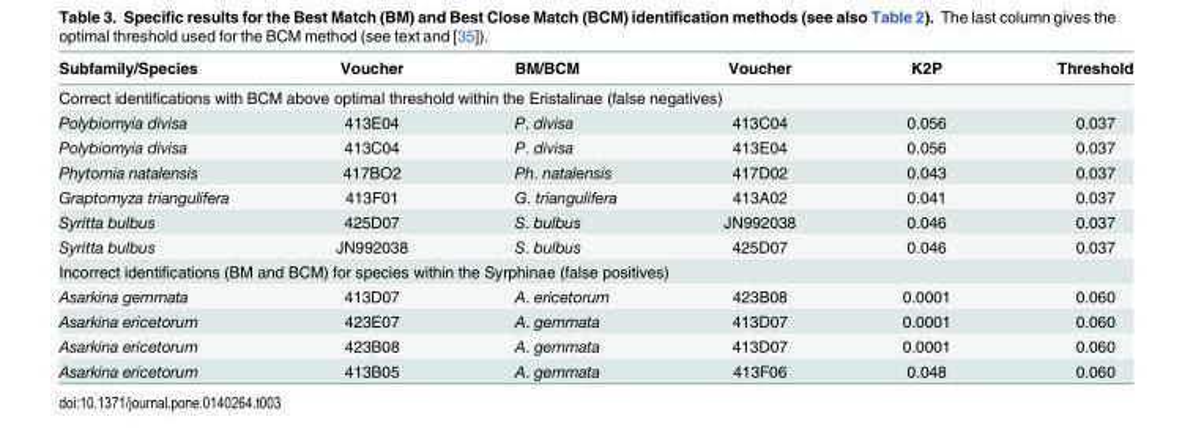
<table><thead><tr><td>Subfamily/Species</td><td>Voucher</td><td>BM/BCM</td><td>Voucher</td><td>K2P</td><td>Threshold</td></tr></thead><tbody><tr><td colspan="6">Correct identifications with BCM above optimal threshold within the Eristalinae (false negatives)</td></tr><tr><td>Polybiomyia divisa</td><td>413E04</td><td>P. divisa</td><td>413C04</td><td>0.056</td><td>0.037</td></tr><tr><td>Polybiomyia divisa</td><td>413C04</td><td>P. divisa</td><td>413E04</td><td>0.056</td><td>0.037</td></tr><tr><td>Phytomia natalensis</td><td>417BO2</td><td>Ph. natalensis</td><td>417D02</td><td>0.043</td><td>0.037</td></tr><tr><td>Graptomyza triangulifera</td><td>413F01</td><td>G. triangulifera</td><td>413A02</td><td>0.041</td><td>0.037</td></tr><tr><td>Syritta bulbus</td><td>425D07</td><td>S. bulbus</td><td>JN992038</td><td>0.046</td><td>0.037</td></tr><tr><td>Syritta bulbus</td><td>JN992038</td><td>S. bulbus</td><td>425D07</td><td>0.046</td><td>0.037</td></tr><tr><td colspan="6">Incorrect identifications (BM and BCM) for species within the Syrphinae (false positives)</td></tr><tr><td>Asarkina gemmata</td><td>413D07</td><td>A. ericetorum</td><td>423B08</td><td>0.0001</td><td>0.060</td></tr><tr><td>Asarkina ericetorum</td><td>423E07</td><td>A. gemmata</td><td>413D07</td><td>0.0001</td><td>0.060</td></tr><tr><td>Asarkina ericetorum</td><td>423B08</td><td>A. gemmata</td><td>413D07</td><td>0.0001</td><td>0.060</td></tr><tr><td>Asarkina ericetorum</td><td>413B05</td><td>A. gemmata</td><td>413F06</td><td>0.048</td><td>0.060</td></tr></tbody></table>